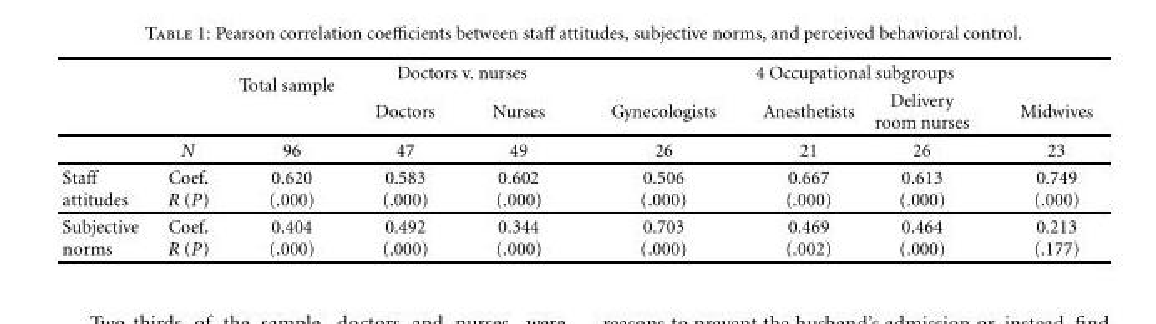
<table><thead><tr><td rowspan="2"></td><td rowspan="2"></td><td rowspan="2">Total sample</td><td colspan="2">Doctors v. nurses</td><td colspan="4">4 Occupational subgroups</td></tr><tr><td>Doctors</td><td>Nurses</td><td>Gynecologists</td><td>Anesthetists</td><td>Delivery room nurses</td><td>Midwives</td></tr></thead><tbody><tr><td></td><td>N</td><td>96</td><td>47</td><td>49</td><td>26</td><td>21</td><td>26</td><td>23</td></tr><tr><td>Staff attitudes</td><td>Coef. R (P)</td><td>0.620 (.000)</td><td>0.583 (.000)</td><td>0.602 (.000)</td><td>0.506 (.000)</td><td>0.667 (.000)</td><td>0.613 (.000)</td><td>0.749 (.000)</td></tr><tr><td>Subjective norms</td><td>Coef. R (P)</td><td>0.404 (.000)</td><td>0.492 (.000)</td><td>0.344 (.000)</td><td>0.703 (.000)</td><td>0.469 (.002)</td><td>0.464 (.000)</td><td>0.213 (.177)</td></tr></tbody></table>